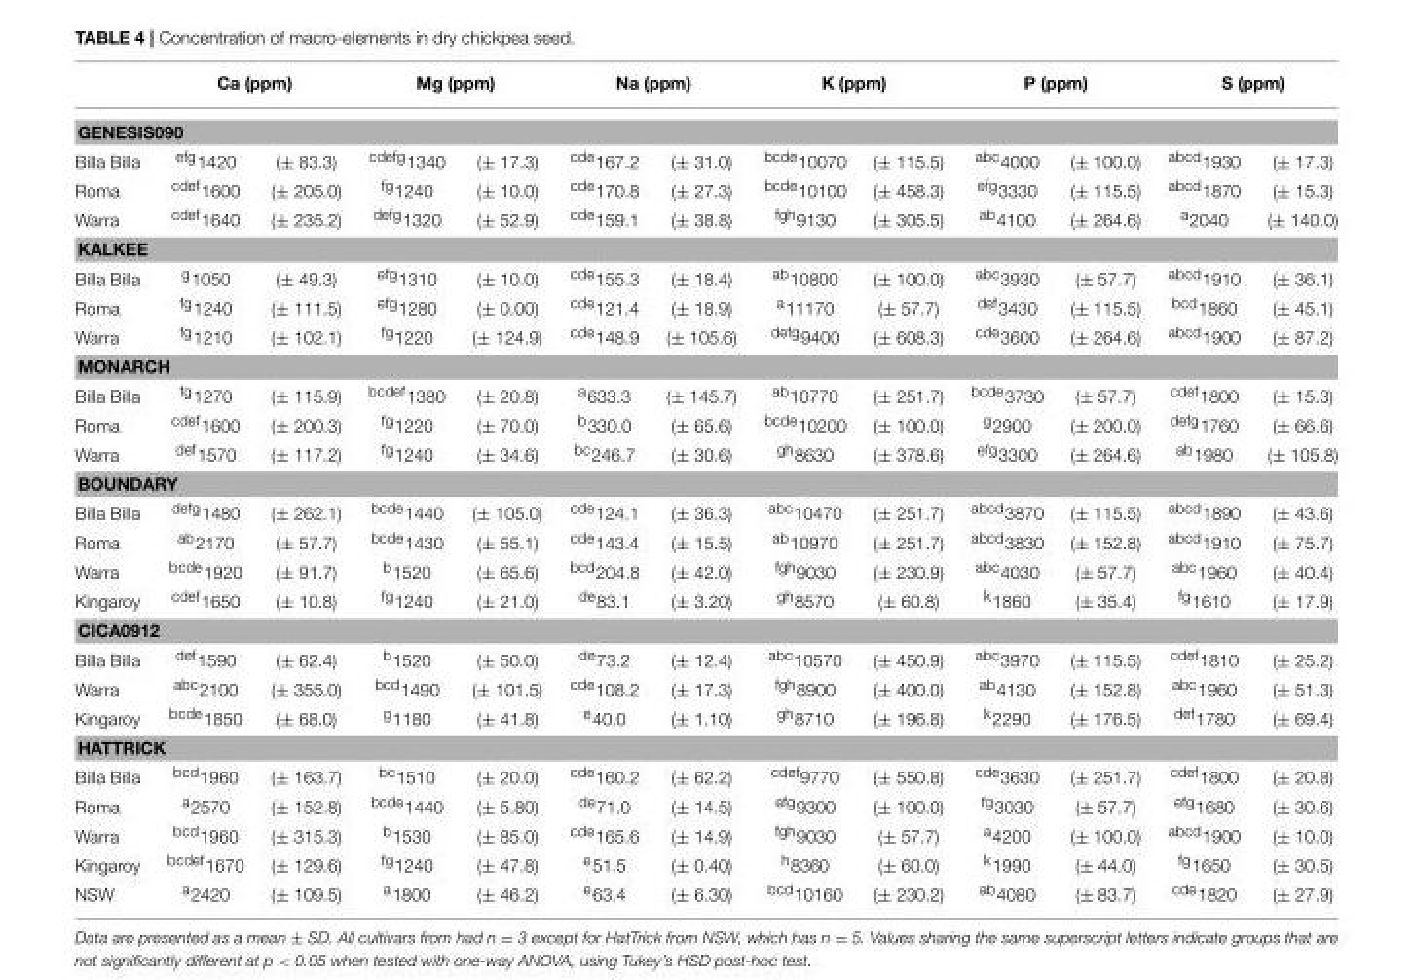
<table><thead><tr><td></td><td colspan="2">Ca (ppm)</td><td colspan="2">Mg (ppm)</td><td colspan="2">Na (ppm)</td><td colspan="2">K (ppm)</td><td colspan="2">P (ppm)</td><td colspan="2">S (ppm)</td></tr><tr><td colspan="13">GENESIS090</td></tr><tr><td>Billa Billa</td><td><sup>efg</sup>1420</td><td>(± 83.3)</td><td><sup>cdefg</sup>1340</td><td>(± 17.3)</td><td><sup>cde</sup>167.2</td><td>(± 31.0)</td><td><sup>bcde</sup>10070</td><td>(± 115.5)</td><td><sup>abc</sup>4000</td><td>(± 100.0)</td><td><sup>abcd</sup>1930</td><td>(± 17.3)</td></tr></thead><tbody><tr><td>Roma</td><td><sup>cdef</sup>1600</td><td>(± 205.0)</td><td><sup>fg</sup>1240</td><td>(± 10.0)</td><td><sup>cde</sup>170.8</td><td>(± 27.3)</td><td><sup>bcde</sup>10100</td><td>(± 458.3)</td><td><sup>efg</sup>3330</td><td>(± 115.5)</td><td><sup>abcd</sup>1870</td><td>(± 15.3)</td></tr><tr><td>Warra</td><td><sup>cdef</sup>1640</td><td>(± 235.2)</td><td><sup>defg</sup>1320</td><td>(± 52.9)</td><td><sup>cde</sup>159.1</td><td>(± 38.8)</td><td><sup>fgh</sup>9130</td><td>(± 305.5)</td><td><sup>ab</sup>4100</td><td>(± 264.6)</td><td><sup>a</sup>2040</td><td>(± 140.0)</td></tr><tr><td colspan="13">KALKEE</td></tr><tr><td>Billa Billa</td><td><sup>g</sup>1050</td><td>(± 49.3)</td><td><sup>efg</sup>1310</td><td>(± 10.0)</td><td><sup>cde</sup>155.3</td><td>(± 18.4)</td><td><sup>ab</sup>10800</td><td>(± 100.0)</td><td><sup>abc</sup>3930</td><td>(± 57.7)</td><td><sup>abcd</sup>1910</td><td>(± 36.1)</td></tr><tr><td>Roma</td><td><sup>fg</sup>1240</td><td>(± 111.5)</td><td><sup>efg</sup>1280</td><td>(± 0.00)</td><td><sup>cde</sup>121.4</td><td>(± 18.9)</td><td><sup>a</sup>11170</td><td>(± 57.7)</td><td><sup>def</sup>3430</td><td>(± 115.5)</td><td><sup>bcd</sup>1860</td><td>(± 45.1)</td></tr><tr><td>Warra</td><td><sup>fg</sup>1210</td><td>(± 102.1)</td><td><sup>fg</sup>1220</td><td>(± 124.9)</td><td><sup>cde</sup>148.9</td><td>(± 105.6)</td><td><sup>defg</sup>9400</td><td>(± 608.3)</td><td><sup>cde</sup>3600</td><td>(± 264.6)</td><td><sup>abcd</sup>1900</td><td>(± 87.2)</td></tr><tr><td colspan="13">MONARCH</td></tr><tr><td>Billa Billa</td><td><sup>fg</sup>1270</td><td>(± 115.9)</td><td><sup>bcdef</sup>1380</td><td>(± 20.8)</td><td><sup>a</sup>633.3</td><td>(± 145.7)</td><td><sup>ab</sup>10770</td><td>(± 251.7)</td><td><sup>bcde</sup>3730</td><td>(± 57.7)</td><td><sup>cdef</sup>1800</td><td>(± 15.3)</td></tr><tr><td>Roma</td><td><sup>cdef</sup>1600</td><td>(± 200.3)</td><td><sup>fg</sup>1220</td><td>(± 70.0)</td><td><sup>b</sup>330.0</td><td>(± 65.6)</td><td><sup>bcde</sup>10200</td><td>(± 100.0)</td><td><sup>g</sup>2900</td><td>(± 200.0)</td><td><sup>defg</sup>1760</td><td>(± 66.6)</td></tr><tr><td>Warra</td><td><sup>def</sup>1570</td><td>(± 117.2)</td><td><sup>fg</sup>1240</td><td>(± 34.6)</td><td><sup>bc</sup>246.7</td><td>(± 30.6)</td><td><sup>gh</sup>8630</td><td>(± 378.6)</td><td><sup>efg</sup>3300</td><td>(± 264.6)</td><td><sup>ab</sup>1980</td><td>(± 105.8)</td></tr><tr><td colspan="13">BOUNDARY</td></tr><tr><td>Billa Billa</td><td><sup>defg</sup>1480</td><td>(± 262.1)</td><td><sup>bcde</sup>1440</td><td>(± 105.0)</td><td><sup>cde</sup>124.1</td><td>(± 36.3)</td><td><sup>abc</sup>10470</td><td>(± 251.7)</td><td><sup>abcd</sup>3870</td><td>(± 115.5)</td><td><sup>abcd</sup>1890</td><td>(± 43.6)</td></tr><tr><td>Roma</td><td><sup>ab</sup>2170</td><td>(± 57.7)</td><td><sup>bcde</sup>1430</td><td>(± 55.1)</td><td><sup>cde</sup>143.4</td><td>(± 15.5)</td><td><sup>ab</sup>10970</td><td>(± 251.7)</td><td><sup>abcd</sup>3830</td><td>(± 152.8)</td><td><sup>abcd</sup>1910</td><td>(± 75.7)</td></tr><tr><td>Warra</td><td><sup>bcde</sup>1920</td><td>(± 91.7)</td><td><sup>b</sup>1520</td><td>(± 65.6)</td><td><sup>bcd</sup>204.8</td><td>(± 42.0)</td><td><sup>fgh</sup>9030</td><td>(± 230.9)</td><td><sup>abc</sup>4030</td><td>(± 57.7)</td><td><sup>abc</sup>1960</td><td>(± 40.4)</td></tr><tr><td>Kingaroy</td><td><sup>cdef</sup>1650</td><td>(± 10.8)</td><td><sup>fg</sup>1240</td><td>(± 21.0)</td><td><sup>de</sup>83.1</td><td>(± 3.20)</td><td><sup>gh</sup>8570</td><td>(± 60.8)</td><td><sup>k</sup>1860</td><td>(± 35.4)</td><td><sup>fg</sup>1610</td><td>(± 17.9)</td></tr><tr><td colspan="13">CICA0912</td></tr><tr><td>Billa Billa</td><td><sup>def</sup>1590</td><td>(± 62.4)</td><td><sup>b</sup>1520</td><td>(± 50.0)</td><td><sup>de</sup>73.2</td><td>(± 12.4)</td><td><sup>abc</sup>10570</td><td>(± 450.9)</td><td><sup>abc</sup>3970</td><td>(± 115.5)</td><td><sup>cdef</sup>1810</td><td>(± 25.2)</td></tr><tr><td>Warra</td><td><sup>abc</sup>2100</td><td>(± 355.0)</td><td><sup>bcd</sup>1490</td><td>(± 101.5)</td><td><sup>cde</sup>108.2</td><td>(± 17.3)</td><td><sup>fgh</sup>8900</td><td>(± 400.0)</td><td><sup>ab</sup>4130</td><td>(± 152.8)</td><td><sup>abc</sup>1960</td><td>(± 51.3)</td></tr><tr><td>Kingaroy</td><td><sup>bcde</sup>1850</td><td>(± 68.0)</td><td><sup>g</sup>1180</td><td>(± 41.8)</td><td><sup>e</sup>40.0</td><td>(± 1.10)</td><td><sup>gh</sup>8710</td><td>(± 196.8)</td><td><sup>k</sup>2290</td><td>(± 176.5)</td><td><sup>def</sup>1780</td><td>(± 69.4)</td></tr><tr><td colspan="13">HATTRICK</td></tr><tr><td>Billa Billa</td><td><sup>bcd</sup>1960</td><td>(± 163.7)</td><td><sup>bc</sup>1510</td><td>(± 20.0)</td><td><sup>cde</sup>160.2</td><td>(± 62.2)</td><td><sup>cdef</sup>9770</td><td>(± 550.8)</td><td><sup>cde</sup>3630</td><td>(± 251.7)</td><td><sup>cdef</sup>1800</td><td>(± 20.8)</td></tr><tr><td>Roma</td><td><sup>a</sup>2570</td><td>(± 152.8)</td><td><sup>bcde</sup>1440</td><td>(± 5.80)</td><td><sup>de</sup>71.0</td><td>(± 14.5)</td><td><sup>efg</sup>9300</td><td>(± 100.0)</td><td><sup>fg</sup>3030</td><td>(± 57.7)</td><td><sup>efg</sup>1680</td><td>(± 30.6)</td></tr><tr><td>Warra</td><td><sup>bcd</sup>1960</td><td>(± 315.3)</td><td><sup>b</sup>1530</td><td>(± 85.0)</td><td><sup>cde</sup>165.6</td><td>(± 14.9)</td><td><sup>fgh</sup>9030</td><td>(± 57.7)</td><td><sup>a</sup>4200</td><td>(± 100.0)</td><td><sup>abcd</sup>1900</td><td>(± 10.0)</td></tr><tr><td>Kingaroy</td><td><sup>bcdef</sup>1670</td><td>(± 129.6)</td><td><sup>fg</sup>1240</td><td>(± 47.8)</td><td><sup>e</sup>51.5</td><td>(± 0.40)</td><td><sup>h</sup>8360</td><td>(± 60.0)</td><td><sup>k</sup>1990</td><td>(± 44.0)</td><td><sup>fg</sup>1650</td><td>(± 30.5)</td></tr><tr><td>NSW</td><td><sup>a</sup>2420</td><td>(± 109.5)</td><td><sup>a</sup>1800</td><td>(± 46.2)</td><td><sup>e</sup>63.4</td><td>(± 6.30)</td><td><sup>bcd</sup>10160</td><td>(± 230.2)</td><td><sup>ab</sup>4080</td><td>(± 83.7)</td><td><sup>cde</sup>1820</td><td>(± 27.9)</td></tr></tbody></table>